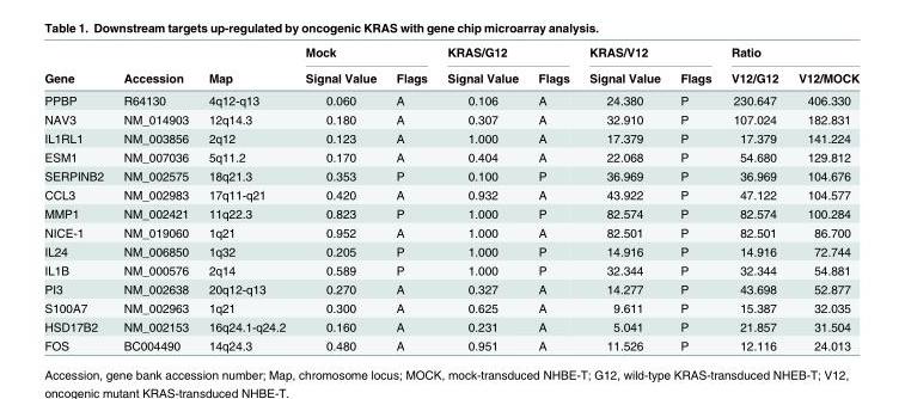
<table><thead><tr><td rowspan="2">Gene</td><td rowspan="2">Accession</td><td rowspan="2">Map</td><td colspan="2">Mock</td><td colspan="2">KRAS/G12</td><td colspan="2">KRAS/V12</td><td colspan="2">Ratio</td></tr><tr><td>Signal Value</td><td>Flags</td><td>Signal Value</td><td>Flags</td><td>Signal Value</td><td>Flags</td><td>V12/G12</td><td>V12/MOCK</td></tr></thead><tbody><tr><td>PPBP</td><td>R64130</td><td>4q12-q13</td><td>0.060</td><td>A</td><td>0.106</td><td>A</td><td>24.380</td><td>P</td><td>230.647</td><td>406.330</td></tr><tr><td>NAV3</td><td>NM_014903</td><td>12q14.3</td><td>0.180</td><td>A</td><td>0.307</td><td>A</td><td>32.910</td><td>P</td><td>107.024</td><td>182.831</td></tr><tr><td>IL1RL1</td><td>NM_003856</td><td>2q12</td><td>0.123</td><td>A</td><td>1.000</td><td>A</td><td>17.379</td><td>P</td><td>17.379</td><td>141.224</td></tr><tr><td>ESM1</td><td>NM_007036</td><td>5q11.2</td><td>0.170</td><td>A</td><td>0.404</td><td>A</td><td>22.068</td><td>P</td><td>54.680</td><td>129.812</td></tr><tr><td>SERPINB2</td><td>NM_002575</td><td>18q21.3</td><td>0.353</td><td>P</td><td>0.100</td><td>P</td><td>36.969</td><td>P</td><td>36.969</td><td>104.676</td></tr><tr><td>CCL3</td><td>NM_002983</td><td>17q11-q21</td><td>0.420</td><td>A</td><td>0.932</td><td>A</td><td>43.922</td><td>P</td><td>47.122</td><td>104.577</td></tr><tr><td>MMP1</td><td>NM_002421</td><td>11q22.3</td><td>0.823</td><td>P</td><td>1.000</td><td>P</td><td>82.574</td><td>P</td><td>82.574</td><td>100.284</td></tr><tr><td>NICE-1</td><td>NM_019060</td><td>1q21</td><td>0.952</td><td>A</td><td>1.000</td><td>A</td><td>82.501</td><td>P</td><td>82.501</td><td>86.700</td></tr><tr><td>IL24</td><td>NM_006850</td><td>1q32</td><td>0.205</td><td>P</td><td>1.000</td><td>P</td><td>14.916</td><td>P</td><td>14.916</td><td>72.744</td></tr><tr><td>IL1B</td><td>NM_000576</td><td>2q14</td><td>0.589</td><td>P</td><td>1.000</td><td>P</td><td>32.344</td><td>P</td><td>32.344</td><td>54.881</td></tr><tr><td>PI3</td><td>NM_002638</td><td>20q12-q13</td><td>0.270</td><td>A</td><td>0.327</td><td>A</td><td>14.277</td><td>P</td><td>43.698</td><td>52.877</td></tr><tr><td>S100A7</td><td>NM_002963</td><td>1q21</td><td>0.300</td><td>A</td><td>0.625</td><td>A</td><td>9.611</td><td>P</td><td>15.387</td><td>32.035</td></tr><tr><td>HSD17B2</td><td>NM_002153</td><td>16q24.1-q24.2</td><td>0.160</td><td>A</td><td>0.231</td><td>A</td><td>5.041</td><td>P</td><td>21.857</td><td>31.504</td></tr><tr><td>FOS</td><td>BC004490</td><td>14q24.3</td><td>0.480</td><td>A</td><td>0.951</td><td>A</td><td>11.526</td><td>P</td><td>12.116</td><td>24.013</td></tr></tbody></table>